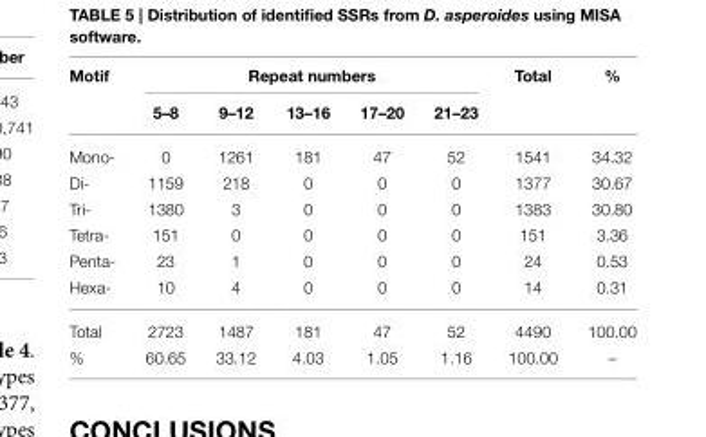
<table><thead><tr><td rowspan="2">Motif</td><td colspan="5">Repeat numbers</td><td rowspan="2">Total</td><td rowspan="2">%</td></tr><tr><td>5–8</td><td>9–12</td><td>13–16</td><td>17–20</td><td>21–23</td></tr></thead><tbody><tr><td>Mono-</td><td>0</td><td>1261</td><td>181</td><td>47</td><td>52</td><td>1541</td><td>34.32</td></tr><tr><td>Di-</td><td>1159</td><td>218</td><td>0</td><td>0</td><td>0</td><td>1377</td><td>30.67</td></tr><tr><td>Tri-</td><td>1380</td><td>3</td><td>0</td><td>0</td><td>0</td><td>1383</td><td>30.80</td></tr><tr><td>Tetra-</td><td>151</td><td>0</td><td>0</td><td>0</td><td>0</td><td>151</td><td>3.36</td></tr><tr><td>Penta-</td><td>23</td><td>1</td><td>0</td><td>0</td><td>0</td><td>24</td><td>0.53</td></tr><tr><td>Hexa-</td><td>10</td><td>4</td><td>0</td><td>0</td><td>0</td><td>14</td><td>0.31</td></tr><tr><td>Total</td><td>2723</td><td>1487</td><td>181</td><td>47</td><td>52</td><td>4490</td><td>100.00</td></tr><tr><td>%</td><td>60.65</td><td>33.12</td><td>4.03</td><td>1.05</td><td>1.16</td><td>100.00</td><td>–</td></tr></tbody></table>